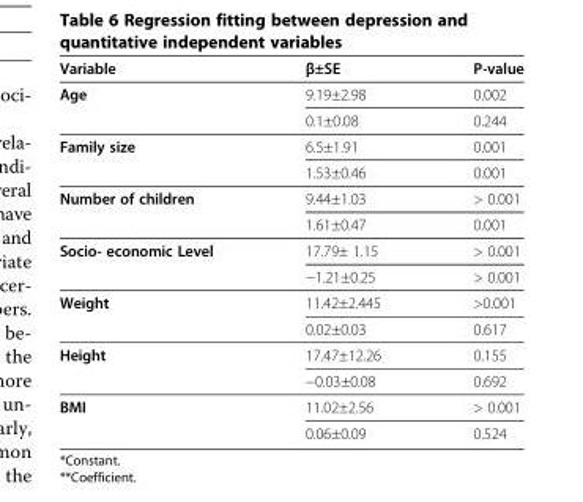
<table><thead><tr><td>Variable</td><td>β±SE</td><td>P-value</td></tr></thead><tbody><tr><td rowspan="2">Age</td><td>9.19±2.98</td><td>0.002</td></tr><tr><td>0.1±0.08</td><td>0.244</td></tr><tr><td rowspan="2">Family size</td><td>6.5±1.91</td><td>0.001</td></tr><tr><td>1.53±0.46</td><td>0.001</td></tr><tr><td rowspan="2">Number of children</td><td>9.44±1.03</td><td>&gt; 0.001</td></tr><tr><td>1.61±0.47</td><td>0.001</td></tr><tr><td rowspan="2">Socio- economic Level</td><td>17.79± 1.15</td><td>&gt; 0.001</td></tr><tr><td>−1.21±0.25</td><td>&gt; 0.001</td></tr><tr><td rowspan="2">Weight</td><td>11.42±2.445</td><td>&gt;0.001</td></tr><tr><td>0.02±0.03</td><td>0.617</td></tr><tr><td rowspan="2">Height</td><td>17.47±12.26</td><td>0.155</td></tr><tr><td>−0.03±0.08</td><td>0.692</td></tr><tr><td rowspan="2">BMI</td><td>11.02±2.56</td><td>&gt; 0.001</td></tr><tr><td>0.06±0.09</td><td>0.524</td></tr></tbody></table>